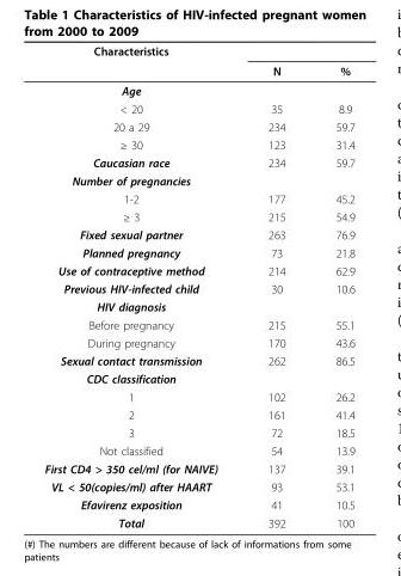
<table><thead><tr><td rowspan="2">Characteristics</td><td rowspan="2">N</td><td rowspan="2">%</td></tr><tr></tr></thead><tbody><tr><td colspan="3">Age</td></tr><tr><td>&lt; 20</td><td>35</td><td>8.9</td></tr><tr><td>20 a 29</td><td>234</td><td>59.7</td></tr><tr><td>≥ 30</td><td>123</td><td>31.4</td></tr><tr><td>Caucasian race</td><td>234</td><td>59.7</td></tr><tr><td colspan="3">Number of pregnancies</td></tr><tr><td>1-2</td><td>177</td><td>45.2</td></tr><tr><td>≥ 3</td><td>215</td><td>54.9</td></tr><tr><td>Fixed sexual partner</td><td>263</td><td>76.9</td></tr><tr><td>Planned pregnancy</td><td>73</td><td>21.8</td></tr><tr><td>Use of contraceptive method</td><td>214</td><td>62.9</td></tr><tr><td>Previous HIV-infected child</td><td>30</td><td>10.6</td></tr><tr><td colspan="3">HIV diagnosis</td></tr><tr><td>Before pregnancy</td><td>215</td><td>55.1</td></tr><tr><td>During pregnancy</td><td>170</td><td>43.6</td></tr><tr><td>Sexual contact transmission</td><td>262</td><td>86.5</td></tr><tr><td colspan="3">CDC classification</td></tr><tr><td>1</td><td>102</td><td>26.2</td></tr><tr><td>2</td><td>161</td><td>41.4</td></tr><tr><td>3</td><td>72</td><td>18.5</td></tr><tr><td>Not classified</td><td>54</td><td>13.9</td></tr><tr><td>First CD4 &gt; 350 cel/ml (for NAIVE)</td><td>137</td><td>39.1</td></tr><tr><td>VL &lt; 50(copies/ml) after HAART</td><td>93</td><td>53.1</td></tr><tr><td>Efavirenz exposition</td><td>41</td><td>10.5</td></tr><tr><td>Total</td><td>392</td><td>100</td></tr></tbody></table>